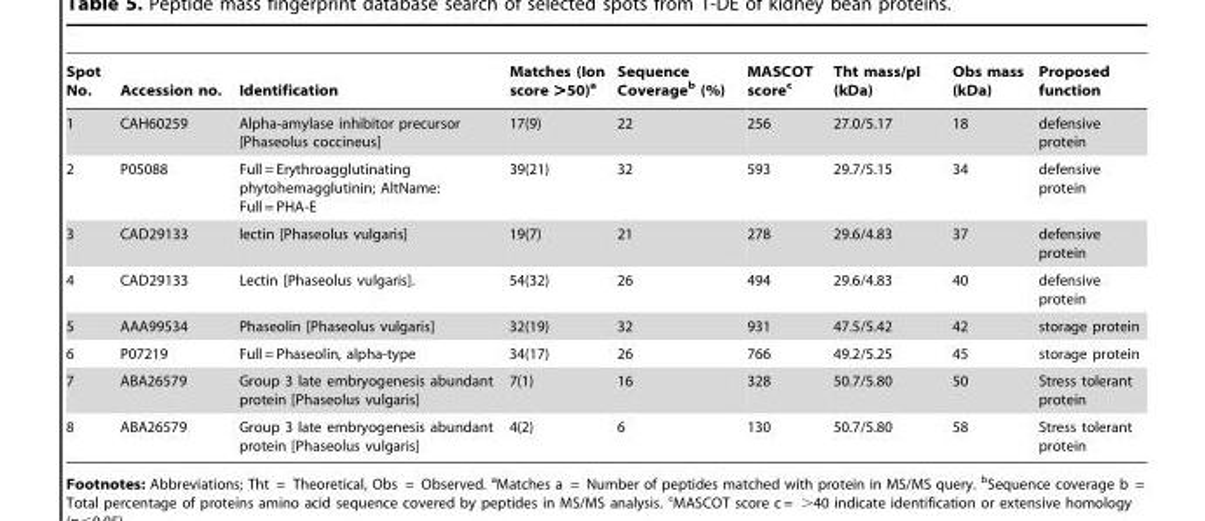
<table><thead><tr><td>Spot No.</td><td>Accession no.</td><td>Identification</td><td>Matches (Ion score &gt;50)<sup>a</sup></td><td>Sequence Coverage<sup>b</sup> (%)</td><td>MASCOT score<sup>c</sup></td><td>Tht mass/pI (kDa)</td><td>Obs mass (kDa)</td><td>Proposed function</td></tr></thead><tbody><tr><td>1</td><td>CAH60259</td><td>Alpha-amylase inhibitor precursor [Phaseolus coccineus]</td><td>17(9)</td><td>22</td><td>256</td><td>27.0/5.17</td><td>18</td><td>defensive protein</td></tr><tr><td>2</td><td>P05088</td><td>Full = Erythroagglutinating phytohemagglutinin; AltName: Full = PHA-E</td><td>39(21)</td><td>32</td><td>593</td><td>29.7/5.15</td><td>34</td><td>defensive protein</td></tr><tr><td>3</td><td>CAD29133</td><td>lectin [Phaseolus vulgaris]</td><td>19(7)</td><td>21</td><td>278</td><td>29.6/4.83</td><td>37</td><td>defensive protein</td></tr><tr><td>4</td><td>CAD29133</td><td>Lectin [Phaseolus vulgaris].</td><td>54(32)</td><td>26</td><td>494</td><td>29.6/4.83</td><td>40</td><td>defensive protein</td></tr><tr><td>5</td><td>AAA99534</td><td>Phaseolin [Phaseolus vulgaris]</td><td>32(19)</td><td>32</td><td>931</td><td>47.5/5.42</td><td>42</td><td>storage protein</td></tr><tr><td>6</td><td>P07219</td><td>Full = Phaseolin, alpha-type</td><td>34(17)</td><td>26</td><td>766</td><td>49.2/5.25</td><td>45</td><td>storage protein</td></tr><tr><td>7</td><td>ABA26579</td><td>Group 3 late embryogenesis abundant protein [Phaseolus vulgaris]</td><td>7(1)</td><td>16</td><td>328</td><td>50.7/5.80</td><td>50</td><td>Stress tolerant protein</td></tr><tr><td>8</td><td>ABA26579</td><td>Group 3 late embryogenesis abundant protein [Phaseolus vulgaris]</td><td>4(2)</td><td>6</td><td>130</td><td>50.7/5.80</td><td>58</td><td>Stress tolerant protein</td></tr></tbody></table>